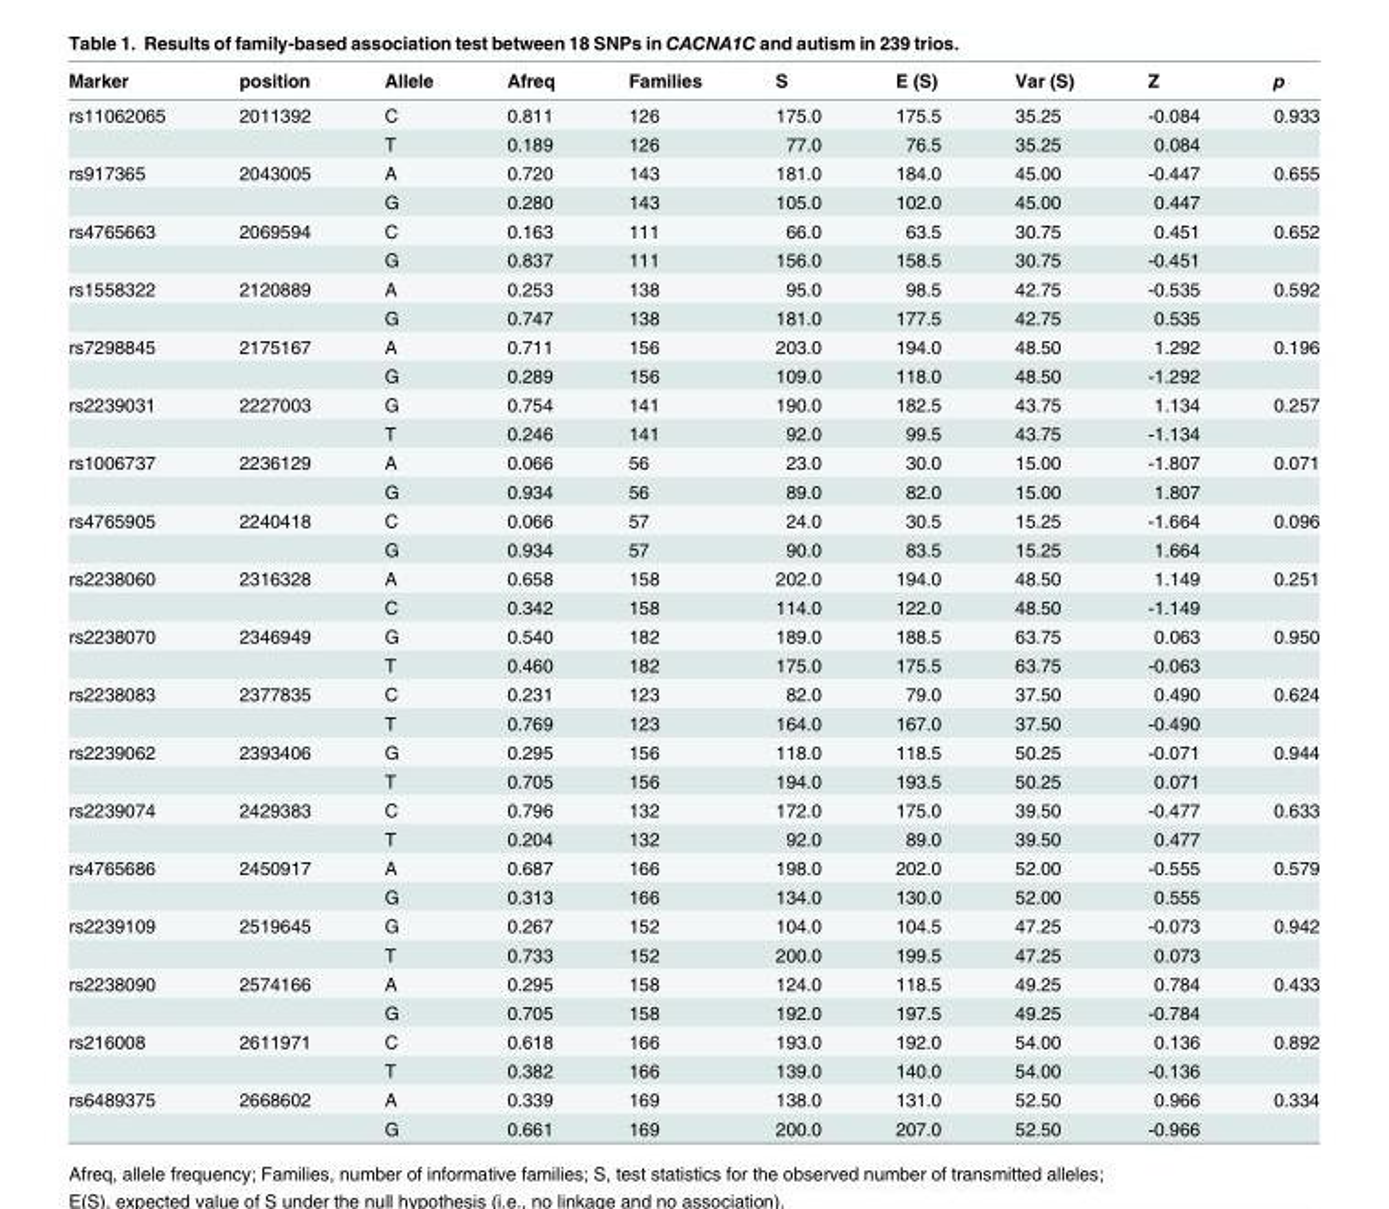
<table><thead><tr><td>Marker</td><td>position</td><td>Allele</td><td>Afreq</td><td>Families</td><td>S</td><td>E (S)</td><td>Var (S)</td><td>Z</td><td>p</td></tr></thead><tbody><tr><td rowspan="2">rs11062065</td><td>2011392</td><td>C</td><td>0.811</td><td>126</td><td>175.0</td><td>175.5</td><td>35.25</td><td>-0.084</td><td>0.933</td></tr><tr><td></td><td>T</td><td>0.189</td><td>126</td><td>77.0</td><td>76.5</td><td>35.25</td><td>0.084</td><td></td></tr><tr><td rowspan="2">rs917365</td><td>2043005</td><td>A</td><td>0.720</td><td>143</td><td>181.0</td><td>184.0</td><td>45.00</td><td>-0.447</td><td>0.655</td></tr><tr><td></td><td>G</td><td>0.280</td><td>143</td><td>105.0</td><td>102.0</td><td>45.00</td><td>0.447</td><td></td></tr><tr><td rowspan="2">rs4765663</td><td>2069594</td><td>C</td><td>0.163</td><td>111</td><td>66.0</td><td>63.5</td><td>30.75</td><td>0.451</td><td>0.652</td></tr><tr><td></td><td>G</td><td>0.837</td><td>111</td><td>156.0</td><td>158.5</td><td>30.75</td><td>-0.451</td><td></td></tr><tr><td rowspan="2">rs1558322</td><td>2120889</td><td>A</td><td>0.253</td><td>138</td><td>95.0</td><td>98.5</td><td>42.75</td><td>-0.535</td><td>0.592</td></tr><tr><td></td><td>G</td><td>0.747</td><td>138</td><td>181.0</td><td>177.5</td><td>42.75</td><td>0.535</td><td></td></tr><tr><td rowspan="2">rs7298845</td><td>2175167</td><td>A</td><td>0.711</td><td>156</td><td>203.0</td><td>194.0</td><td>48.50</td><td>1.292</td><td>0.196</td></tr><tr><td></td><td>G</td><td>0.289</td><td>156</td><td>109.0</td><td>118.0</td><td>48.50</td><td>-1.292</td><td></td></tr><tr><td rowspan="2">rs2239031</td><td>2227003</td><td>G</td><td>0.754</td><td>141</td><td>190.0</td><td>182.5</td><td>43.75</td><td>1.134</td><td>0.257</td></tr><tr><td></td><td>T</td><td>0.246</td><td>141</td><td>92.0</td><td>99.5</td><td>43.75</td><td>-1.134</td><td></td></tr><tr><td rowspan="2">rs1006737</td><td>2236129</td><td>A</td><td>0.066</td><td>56</td><td>23.0</td><td>30.0</td><td>15.00</td><td>-1.807</td><td>0.071</td></tr><tr><td></td><td>G</td><td>0.934</td><td>56</td><td>89.0</td><td>82.0</td><td>15.00</td><td>1.807</td><td></td></tr><tr><td rowspan="2">rs4765905</td><td>2240418</td><td>C</td><td>0.066</td><td>57</td><td>24.0</td><td>30.5</td><td>15.25</td><td>-1.664</td><td>0.096</td></tr><tr><td></td><td>G</td><td>0.934</td><td>57</td><td>90.0</td><td>83.5</td><td>15.25</td><td>1.664</td><td></td></tr><tr><td rowspan="2">rs2238060</td><td>2316328</td><td>A</td><td>0.658</td><td>158</td><td>202.0</td><td>194.0</td><td>48.50</td><td>1.149</td><td>0.251</td></tr><tr><td></td><td>C</td><td>0.342</td><td>158</td><td>114.0</td><td>122.0</td><td>48.50</td><td>-1.149</td><td></td></tr><tr><td rowspan="2">rs2238070</td><td>2346949</td><td>G</td><td>0.540</td><td>182</td><td>189.0</td><td>188.5</td><td>63.75</td><td>0.063</td><td>0.950</td></tr><tr><td></td><td>T</td><td>0.460</td><td>182</td><td>175.0</td><td>175.5</td><td>63.75</td><td>-0.063</td><td></td></tr><tr><td rowspan="2">rs2238083</td><td>2377835</td><td>C</td><td>0.231</td><td>123</td><td>82.0</td><td>79.0</td><td>37.50</td><td>0.490</td><td>0.624</td></tr><tr><td></td><td>T</td><td>0.769</td><td>123</td><td>164.0</td><td>167.0</td><td>37.50</td><td>-0.490</td><td></td></tr><tr><td rowspan="2">rs2239062</td><td>2393406</td><td>G</td><td>0.295</td><td>156</td><td>118.0</td><td>118.5</td><td>50.25</td><td>-0.071</td><td>0.944</td></tr><tr><td></td><td>T</td><td>0.705</td><td>156</td><td>194.0</td><td>193.5</td><td>50.25</td><td>0.071</td><td></td></tr><tr><td rowspan="2">rs2239074</td><td>2429383</td><td>C</td><td>0.796</td><td>132</td><td>172.0</td><td>175.0</td><td>39.50</td><td>-0.477</td><td>0.633</td></tr><tr><td></td><td>T</td><td>0.204</td><td>132</td><td>92.0</td><td>89.0</td><td>39.50</td><td>0.477</td><td></td></tr><tr><td rowspan="2">rs4765686</td><td>2450917</td><td>A</td><td>0.687</td><td>166</td><td>198.0</td><td>202.0</td><td>52.00</td><td>-0.555</td><td>0.579</td></tr><tr><td></td><td>G</td><td>0.313</td><td>166</td><td>134.0</td><td>130.0</td><td>52.00</td><td>0.555</td><td></td></tr><tr><td rowspan="2">rs2239109</td><td>2519645</td><td>G</td><td>0.267</td><td>152</td><td>104.0</td><td>104.5</td><td>47.25</td><td>-0.073</td><td>0.942</td></tr><tr><td></td><td>T</td><td>0.733</td><td>152</td><td>200.0</td><td>199.5</td><td>47.25</td><td>0.073</td><td></td></tr><tr><td rowspan="2">rs2238090</td><td>2574166</td><td>A</td><td>0.295</td><td>158</td><td>124.0</td><td>118.5</td><td>49.25</td><td>0.784</td><td>0.433</td></tr><tr><td></td><td>G</td><td>0.705</td><td>158</td><td>192.0</td><td>197.5</td><td>49.25</td><td>-0.784</td><td></td></tr><tr><td rowspan="2">rs216008</td><td>2611971</td><td>C</td><td>0.618</td><td>166</td><td>193.0</td><td>192.0</td><td>54.00</td><td>0.136</td><td>0.892</td></tr><tr><td></td><td>T</td><td>0.382</td><td>166</td><td>139.0</td><td>140.0</td><td>54.00</td><td>-0.136</td><td></td></tr><tr><td rowspan="2">rs6489375</td><td>2668602</td><td>A</td><td>0.339</td><td>169</td><td>138.0</td><td>131.0</td><td>52.50</td><td>0.966</td><td>0.334</td></tr><tr><td></td><td>G</td><td>0.661</td><td>169</td><td>200.0</td><td>207.0</td><td>52.50</td><td>-0.966</td><td></td></tr></tbody></table>